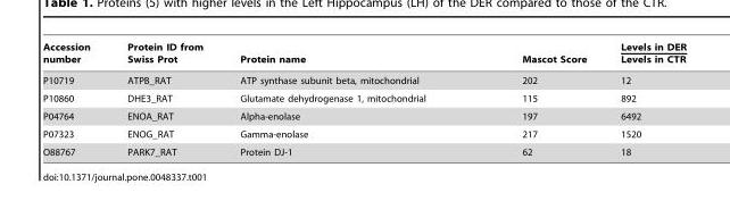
<table><thead><tr><td>Accession number</td><td>Protein ID from Swiss Prot</td><td>Protein name</td><td>Mascot Score</td><td>Levels in DER Levels in CTR</td></tr></thead><tbody><tr><td>P10719</td><td>ATPB_RAT</td><td>ATP synthase subunit beta, mitochondrial</td><td>202</td><td>12</td></tr><tr><td>P10860</td><td>DHE3_RAT</td><td>Glutamate dehydrogenase 1, mitochondrial</td><td>115</td><td>892</td></tr><tr><td>P04764</td><td>ENOA_RAT</td><td>Alpha-enolase</td><td>197</td><td>6492</td></tr><tr><td>P07323</td><td>ENOG_RAT</td><td>Gamma-enolase</td><td>217</td><td>1520</td></tr><tr><td>O88767</td><td>PARK7_RAT</td><td>Protein DJ-1</td><td>62</td><td>18</td></tr></tbody></table>